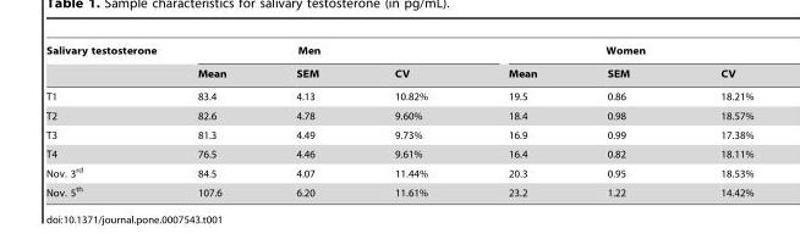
<table><thead><tr><td rowspan="2">Salivary testosterone</td><td colspan="3">Men</td><td colspan="3">Women</td></tr><tr><td>Mean</td><td>SEM</td><td>CV</td><td>Mean</td><td>SEM</td><td>CV</td></tr></thead><tbody><tr><td>T1</td><td>83.4</td><td>4.13</td><td>10.82%</td><td>19.5</td><td>0.86</td><td>18.21%</td></tr><tr><td>T2</td><td>82.6</td><td>4.78</td><td>9.60%</td><td>18.4</td><td>0.98</td><td>18.57%</td></tr><tr><td>T3</td><td>81.3</td><td>4.49</td><td>9.73%</td><td>16.9</td><td>0.99</td><td>17.38%</td></tr><tr><td>T4</td><td>76.5</td><td>4.46</td><td>9.61%</td><td>16.4</td><td>0.82</td><td>18.11%</td></tr><tr><td>Nov. 3<sup>rd</sup></td><td>84.5</td><td>4.07</td><td>11.44%</td><td>20.3</td><td>0.95</td><td>18.53%</td></tr><tr><td>Nov. 5<sup>th</sup></td><td>107.6</td><td>6.20</td><td>11.61%</td><td>23.2</td><td>1.22</td><td>14.42%</td></tr></tbody></table>